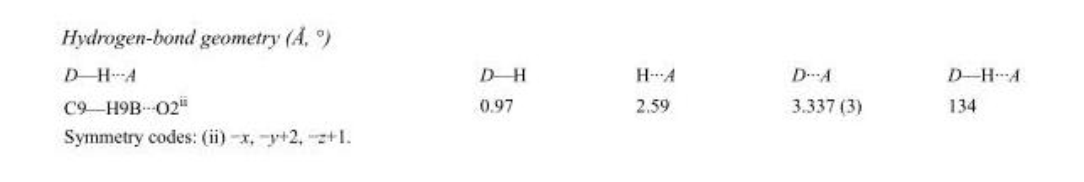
<table><tbody><tr><td>D—H···A</td><td>D—H</td><td>H···A</td><td>D···A</td><td>D—H···A</td></tr><tr><td>C9—H9B···O2<sup>ii</sup></td><td>0.97</td><td>2.59</td><td>3.337 (3)</td><td>134</td></tr></tbody></table>